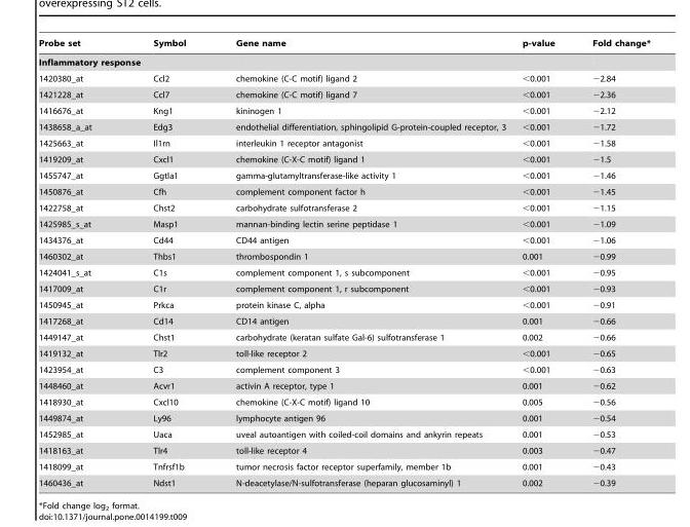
<table><thead><tr><td>Probe set</td><td>Symbol</td><td>Gene name</td><td>p-value</td><td>Fold change*</td></tr></thead><tbody><tr><td colspan="5">Inflammatory response</td></tr><tr><td>1420380_at</td><td>Ccl2</td><td>chemokine (C-C motif) ligand 2</td><td>&lt;0.001</td><td>−2.84</td></tr><tr><td>1421228_at</td><td>Ccl7</td><td>chemokine (C-C motif) ligand 7</td><td>&lt;0.001</td><td>−2.36</td></tr><tr><td>1416676_at</td><td>Kng1</td><td>kininogen 1</td><td>&lt;0.001</td><td>−2.12</td></tr><tr><td>1438658_a_at</td><td>Edg3</td><td>endothelial differentiation, sphingolipid G-protein-coupled receptor, 3</td><td>&lt;0.001</td><td>−1.72</td></tr><tr><td>1425663_at</td><td>Il1rn</td><td>interleukin 1 receptor antagonist</td><td>&lt;0.001</td><td>−1.58</td></tr><tr><td>1419209_at</td><td>Cxcl1</td><td>chemokine (C-X-C motif) ligand 1</td><td>&lt;0.001</td><td>−1.5</td></tr><tr><td>1455747_at</td><td>Ggtla1</td><td>gamma-glutamyltransferase-like activity 1</td><td>&lt;0.001</td><td>−1.46</td></tr><tr><td>1450876_at</td><td>Cfh</td><td>complement component factor h</td><td>&lt;0.001</td><td>−1.45</td></tr><tr><td>1422758_at</td><td>Chst2</td><td>carbohydrate sulfotransferase 2</td><td>&lt;0.001</td><td>−1.15</td></tr><tr><td>1425985_s_at</td><td>Masp1</td><td>mannan-binding lectin serine peptidase 1</td><td>&lt;0.001</td><td>−1.09</td></tr><tr><td>1434376_at</td><td>Cd44</td><td>CD44 antigen</td><td>&lt;0.001</td><td>−1.06</td></tr><tr><td>1460302_at</td><td>Thbs1</td><td>thrombospondin 1</td><td>0.001</td><td>−0.99</td></tr><tr><td>1424041_s_at</td><td>C1s</td><td>complement component 1, s subcomponent</td><td>&lt;0.001</td><td>−0.95</td></tr><tr><td>1417009_at</td><td>C1r</td><td>complement component 1, r subcomponent</td><td>&lt;0.001</td><td>−0.93</td></tr><tr><td>1450945_at</td><td>Prkca</td><td>protein kinase C, alpha</td><td>&lt;0.001</td><td>−0.91</td></tr><tr><td>1417268_at</td><td>Cd14</td><td>CD14 antigen</td><td>0.001</td><td>−0.66</td></tr><tr><td>1449147_at</td><td>Chst1</td><td>carbohydrate (keratan sulfate Gal-6) sulfotransferase 1</td><td>0.002</td><td>−0.66</td></tr><tr><td>1419132_at</td><td>Tlr2</td><td>toll-like receptor 2</td><td>&lt;0.001</td><td>−0.65</td></tr><tr><td>1423954_at</td><td>C3</td><td>complement component 3</td><td>&lt;0.001</td><td>−0.63</td></tr><tr><td>1448460_at</td><td>Acvr1</td><td>activin A receptor, type 1</td><td>0.001</td><td>−0.62</td></tr><tr><td>1418930_at</td><td>Cxcl10</td><td>chemokine (C-X-C motif) ligand 10</td><td>0.005</td><td>−0.56</td></tr><tr><td>1449874_at</td><td>Ly96</td><td>lymphocyte antigen 96</td><td>0.001</td><td>−0.54</td></tr><tr><td>1452985_at</td><td>Uaca</td><td>uveal autoantigen with coiled-coil domains and ankyrin repeats</td><td>0.001</td><td>−0.53</td></tr><tr><td>1418163_at</td><td>Tlr4</td><td>toll-like receptor 4</td><td>0.003</td><td>−0.47</td></tr><tr><td>1418099_at</td><td>Tnfrsf1b</td><td>tumor necrosis factor receptor superfamily, member 1b</td><td>0.001</td><td>−0.43</td></tr><tr><td>1460436_at</td><td>Ndst1</td><td>N-deacetylase/N-sulfotransferase (heparan glucosaminyl) 1</td><td>0.002</td><td>−0.39</td></tr></tbody></table>